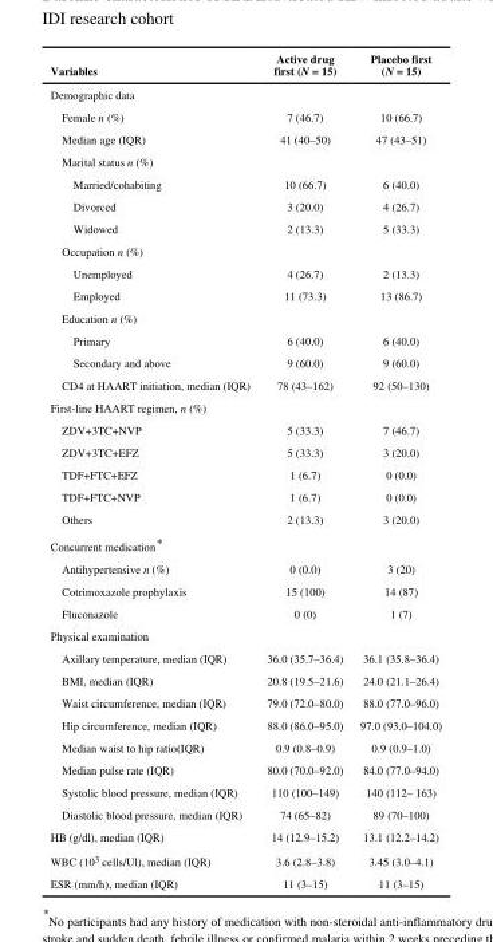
<table><thead><tr><td>Variables</td><td>Active drug first (N = 15)</td><td>Placebo first (N = 15)</td></tr></thead><tbody><tr><td colspan="3">Demographic data</td></tr><tr><td>Female n (%)</td><td>7 (46.7)</td><td>10 (66.7)</td></tr><tr><td>Median age (IQR)</td><td>41 (40–50)</td><td>47 (43–51)</td></tr><tr><td colspan="3">Marital status n (%)</td></tr><tr><td>Married/cohabiting</td><td>10 (66.7)</td><td>6 (40.0)</td></tr><tr><td>Divorced</td><td>3 (20.0)</td><td>4 (26.7)</td></tr><tr><td>Widowed</td><td>2 (13.3)</td><td>5 (33.3)</td></tr><tr><td colspan="3">Occupation n (%)</td></tr><tr><td>Unemployed</td><td>4 (26.7)</td><td>2 (13.3)</td></tr><tr><td>Employed</td><td>11 (73.3)</td><td>13 (86.7)</td></tr><tr><td colspan="3">Education n (%)</td></tr><tr><td>Primary</td><td>6 (40.0)</td><td>6 (40.0)</td></tr><tr><td>Secondary and above</td><td>9 (60.0)</td><td>9 (60.0)</td></tr><tr><td>CD4 at HAART initiation, median (IQR)</td><td>78 (43–162)</td><td>92 (50–130)</td></tr><tr><td colspan="3">First-line HAART regimen, n (%)</td></tr><tr><td>ZDV+3TC+NVP</td><td>5 (33.3)</td><td>7 (46.7)</td></tr><tr><td>ZDV+3TC+EFZ</td><td>5 (33.3)</td><td>3 (20.0)</td></tr><tr><td>TDF+FTC+EFZ</td><td>1 (6.7)</td><td>0 (0.0)</td></tr><tr><td>TDF+FTC+NVP</td><td>1 (6.7)</td><td>0 (0.0)</td></tr><tr><td>Others</td><td>2 (13.3)</td><td>3 (20.0)</td></tr><tr><td colspan="3">Concurrent medication*</td></tr><tr><td>Antihypertensive n (%)</td><td>0 (0.0)</td><td>3 (20)</td></tr><tr><td>Cotrimoxazole prophylaxis</td><td>15 (100)</td><td>14 (87)</td></tr><tr><td>Fluconazole</td><td>0 (0)</td><td>1 (7)</td></tr><tr><td colspan="3">Physical examination</td></tr><tr><td>Axillary temperature, median (IQR)</td><td>36.0 (35.7–36.4)</td><td>36.1 (35.8–36.4)</td></tr><tr><td>BMI, median (IQR)</td><td>20.8 (19.5–21.6)</td><td>24.0 (21.1–26.4)</td></tr><tr><td>Waist circumference, median (IQR)</td><td>79.0 (72.0–80.0)</td><td>88.0 (77.0–96.0)</td></tr><tr><td>Hip circumference, median (IQR)</td><td>88.0 (86.0–95.0)</td><td>97.0 (93.0–104.0)</td></tr><tr><td>Median waist to hip ratio(IQR)</td><td>0.9 (0.8–0.9)</td><td>0.9 (0.9–1.0)</td></tr><tr><td>Median pulse rate (IQR)</td><td>80.0 (70.0–92.0)</td><td>84.0 (77.0–94.0)</td></tr><tr><td>Systolic blood pressure, median (IQR)</td><td>110 (100–149)</td><td>140 (112– 163)</td></tr><tr><td>Diastolic blood pressure, median (IQR)</td><td>74 (65–82)</td><td>89 (70–100)</td></tr><tr><td>HB (g/dl), median (IQR)</td><td>14 (12.9–15.2)</td><td>13.1 (12.2–14.2)</td></tr><tr><td>WBC (10<sup>3</sup> cells/Ul), median (IQR)</td><td>3.6 (2.8–3.8)</td><td>3.45 (3.0–4.1)</td></tr><tr><td>ESR (mm/h), median (IQR)</td><td>11 (3–15)</td><td>11 (3–15)</td></tr></tbody></table>